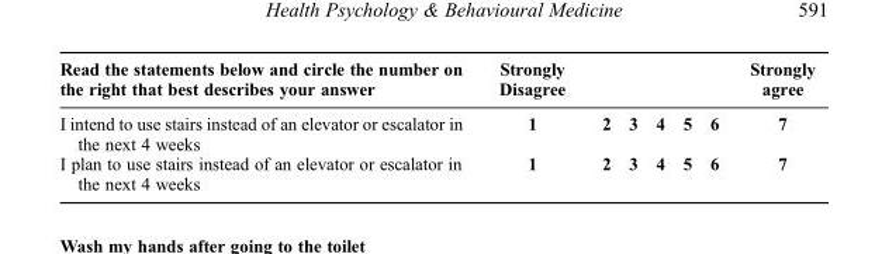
<table><thead><tr><td>Read the statements below and circle the number on the right that best describes your answer</td><td>Strongly Disagree</td><td></td><td></td><td></td><td></td><td></td><td>Strongly agree</td></tr></thead><tbody><tr><td>I intend to use stairs instead of an elevator or escalator in the next 4 weeks</td><td>1</td><td>2</td><td>3</td><td>4</td><td>5</td><td>6</td><td>7</td></tr><tr><td>I plan to use stairs instead of an elevator or escalator in the next 4 weeks</td><td>1</td><td>2</td><td>3</td><td>4</td><td>5</td><td>6</td><td>7</td></tr></tbody></table>